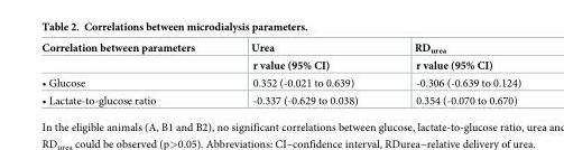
<table><thead><tr><td rowspan="2">Correlation between parameters</td><td rowspan="2">Urea r value (95% CI)</td><td rowspan="2">RD<sub>urea</sub> r value (95% CI)</td></tr><tr></tr></thead><tbody><tr><td>• Glucose</td><td>0.352 (-0.021 to 0.639)</td><td>-0.306 (-0.639 to 0.124)</td></tr><tr><td>• Lactate-to-glucose ratio</td><td>-0.337 (-0.629 to 0.038)</td><td>0.354 (-0.070 to 0.670)</td></tr></tbody></table>